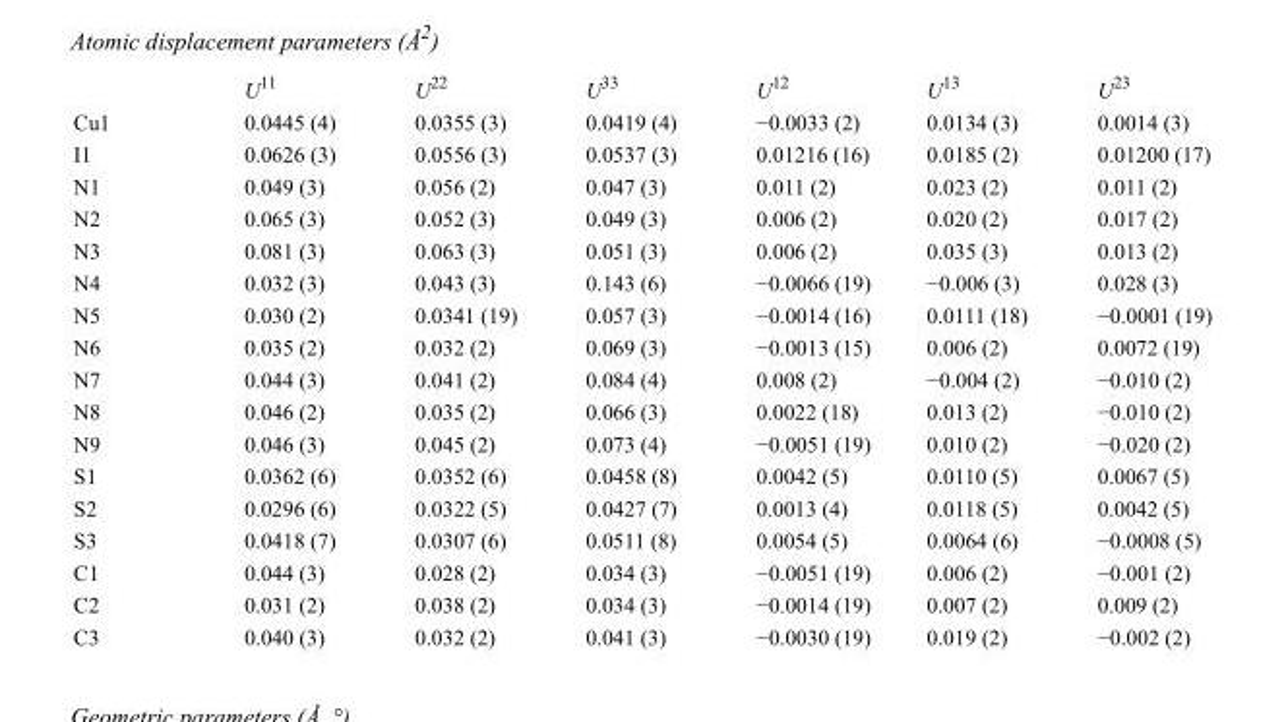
<table><thead><tr><td></td><td>U<sup>11</sup></td><td>U<sup>22</sup></td><td>U<sup>33</sup></td><td>U<sup>12</sup></td><td>U<sup>13</sup></td><td>U<sup>23</sup></td></tr></thead><tbody><tr><td>Cu1</td><td>0.0445 (4)</td><td>0.0355 (3)</td><td>0.0419 (4)</td><td>−0.0033 (2)</td><td>0.0134 (3)</td><td>0.0014 (3)</td></tr><tr><td>I1</td><td>0.0626 (3)</td><td>0.0556 (3)</td><td>0.0537 (3)</td><td>0.01216 (16)</td><td>0.0185 (2)</td><td>0.01200 (17)</td></tr><tr><td>N1</td><td>0.049 (3)</td><td>0.056 (2)</td><td>0.047 (3)</td><td>0.011 (2)</td><td>0.023 (2)</td><td>0.011 (2)</td></tr><tr><td>N2</td><td>0.065 (3)</td><td>0.052 (3)</td><td>0.049 (3)</td><td>0.006 (2)</td><td>0.020 (2)</td><td>0.017 (2)</td></tr><tr><td>N3</td><td>0.081 (3)</td><td>0.063 (3)</td><td>0.051 (3)</td><td>0.006 (2)</td><td>0.035 (3)</td><td>0.013 (2)</td></tr><tr><td>N4</td><td>0.032 (3)</td><td>0.043 (3)</td><td>0.143 (6)</td><td>−0.0066 (19)</td><td>−0.006 (3)</td><td>0.028 (3)</td></tr><tr><td>N5</td><td>0.030 (2)</td><td>0.0341 (19)</td><td>0.057 (3)</td><td>−0.0014 (16)</td><td>0.0111 (18)</td><td>−0.0001 (19)</td></tr><tr><td>N6</td><td>0.035 (2)</td><td>0.032 (2)</td><td>0.069 (3)</td><td>−0.0013 (15)</td><td>0.006 (2)</td><td>0.0072 (19)</td></tr><tr><td>N7</td><td>0.044 (3)</td><td>0.041 (2)</td><td>0.084 (4)</td><td>0.008 (2)</td><td>−0.004 (2)</td><td>−0.010 (2)</td></tr><tr><td>N8</td><td>0.046 (2)</td><td>0.035 (2)</td><td>0.066 (3)</td><td>0.0022 (18)</td><td>0.013 (2)</td><td>−0.010 (2)</td></tr><tr><td>N9</td><td>0.046 (3)</td><td>0.045 (2)</td><td>0.073 (4)</td><td>−0.0051 (19)</td><td>0.010 (2)</td><td>−0.020 (2)</td></tr><tr><td>S1</td><td>0.0362 (6)</td><td>0.0352 (6)</td><td>0.0458 (8)</td><td>0.0042 (5)</td><td>0.0110 (5)</td><td>0.0067 (5)</td></tr><tr><td>S2</td><td>0.0296 (6)</td><td>0.0322 (5)</td><td>0.0427 (7)</td><td>0.0013 (4)</td><td>0.0118 (5)</td><td>0.0042 (5)</td></tr><tr><td>S3</td><td>0.0418 (7)</td><td>0.0307 (6)</td><td>0.0511 (8)</td><td>0.0054 (5)</td><td>0.0064 (6)</td><td>−0.0008 (5)</td></tr><tr><td>C1</td><td>0.044 (3)</td><td>0.028 (2)</td><td>0.034 (3)</td><td>−0.0051 (19)</td><td>0.006 (2)</td><td>−0.001 (2)</td></tr><tr><td>C2</td><td>0.031 (2)</td><td>0.038 (2)</td><td>0.034 (3)</td><td>−0.0014 (19)</td><td>0.007 (2)</td><td>0.009 (2)</td></tr><tr><td>C3</td><td>0.040 (3)</td><td>0.032 (2)</td><td>0.041 (3)</td><td>−0.0030 (19)</td><td>0.019 (2)</td><td>−0.002 (2)</td></tr></tbody></table>